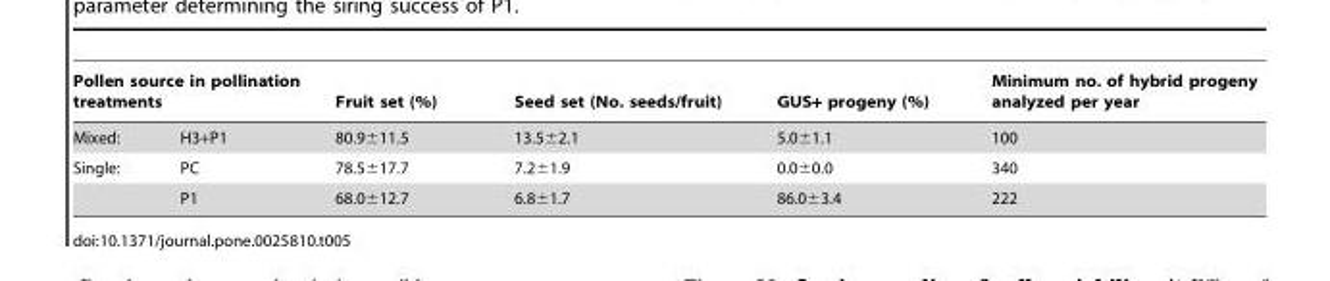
<table><thead><tr><td colspan="2">Pollen source in pollination treatments</td><td rowspan="2">Fruit set (%) 80.9±11.5</td><td rowspan="2">Seed set (No. seeds/fruit) 13.5±2.1</td><td rowspan="2">GUS+ progeny (%) 5.0±1.1</td><td rowspan="2">Minimum no. of hybrid progeny analyzed per year 100</td></tr><tr><td>Mixed:</td><td>H3+P1</td></tr></thead><tbody><tr><td rowspan="2">Single:</td><td>PC</td><td>78.5±17.7</td><td>7.2±1.9</td><td>0.0±0.0</td><td>340</td></tr><tr><td>P1</td><td>68.0±12.7</td><td>6.8±1.7</td><td>86.0±3.4</td><td>222</td></tr></tbody></table>